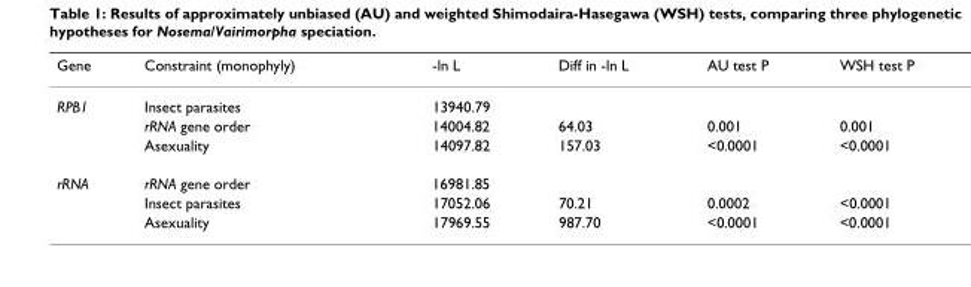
<table><thead><tr><td>Gene</td><td>Constraint (monophyly)</td><td>-ln L</td><td>Diff in -ln L</td><td>AU test P</td><td>WSH test P</td></tr></thead><tbody><tr><td rowspan="3">RPB1</td><td>Insect parasites</td><td>13940.79</td><td></td><td></td><td></td></tr><tr><td>rRNA gene order</td><td>14004.82</td><td>64.03</td><td>0.001</td><td>0.001</td></tr><tr><td>Asexuality</td><td>14097.82</td><td>157.03</td><td>&lt;0.0001</td><td>&lt;0.0001</td></tr><tr><td rowspan="3">rRNA</td><td>rRNA gene order</td><td>16981.85</td><td></td><td></td><td></td></tr><tr><td>Insect parasites</td><td>17052.06</td><td>70.21</td><td>0.0002</td><td>&lt;0.0001</td></tr><tr><td>Asexuality</td><td>17969.55</td><td>987.70</td><td>&lt;0.0001</td><td>&lt;0.0001</td></tr></tbody></table>